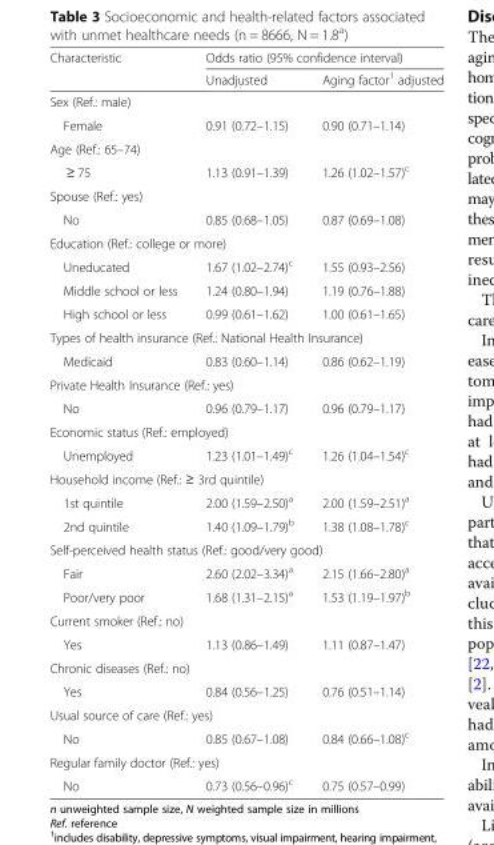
<table><thead><tr><td rowspan="2">Characteristic</td><td colspan="2">Odds ratio (95% confidence interval)</td></tr><tr><td>Unadjusted</td><td>Aging factor<sup>1</sup> adjusted</td></tr></thead><tbody><tr><td colspan="3">Sex (Ref.: male)</td></tr><tr><td>Female</td><td>0.91 (0.72–1.15)</td><td>0.90 (0.71–1.14)</td></tr><tr><td colspan="3">Age (Ref.: 65–74)</td></tr><tr><td>≥ 75</td><td>1.13 (0.91–1.39)</td><td>1.26 (1.02–1.57)<sup>c</sup></td></tr><tr><td colspan="3">Spouse (Ref.: yes)</td></tr><tr><td>No</td><td>0.85 (0.68–1.05)</td><td>0.87 (0.69–1.08)</td></tr><tr><td colspan="3">Education (Ref.: college or more)</td></tr><tr><td>Uneducated</td><td>1.67 (1.02–2.74)<sup>c</sup></td><td>1.55 (0.93–2.56)</td></tr><tr><td>Middle school or less</td><td>1.24 (0.80–1.94)</td><td>1.19 (0.76–1.88)</td></tr><tr><td>High school or less</td><td>0.99 (0.61–1.62)</td><td>1.00 (0.61–1.65)</td></tr><tr><td colspan="3">Types of health insurance (Ref.: National Health Insurance)</td></tr><tr><td>Medicaid</td><td>0.83 (0.60–1.14)</td><td>0.86 (0.62–1.19)</td></tr><tr><td colspan="3">Private Health Insurance (Ref.: yes)</td></tr><tr><td>No</td><td>0.96 (0.79–1.17)</td><td>0.96 (0.79–1.17)</td></tr><tr><td colspan="3">Economic status (Ref.: employed)</td></tr><tr><td>Unemployed</td><td>1.23 (1.01–1.49)<sup>c</sup></td><td>1.26 (1.04–1.54)<sup>c</sup></td></tr><tr><td colspan="3">Household income (Ref.: ≥ 3rd quintile)</td></tr><tr><td>1st quintile</td><td>2.00 (1.59–2.50)<sup>a</sup></td><td>2.00 (1.59–2.51)<sup>a</sup></td></tr><tr><td>2nd quintile</td><td>1.40 (1.09–1.79)<sup>b</sup></td><td>1.38 (1.08–1.78)<sup>c</sup></td></tr><tr><td colspan="3">Self-perceived health status (Ref.: good/very good)</td></tr><tr><td>Fair</td><td>2.60 (2.02–3.34)<sup>a</sup></td><td>2.15 (1.66–2.80)<sup>a</sup></td></tr><tr><td>Poor/very poor</td><td>1.68 (1.31–2.15)<sup>a</sup></td><td>1.53 (1.19–1.97)<sup>b</sup></td></tr><tr><td colspan="3">Current smoker (Ref.: no)</td></tr><tr><td>Yes</td><td>1.13 (0.86–1.49)</td><td>1.11 (0.87–1.47)</td></tr><tr><td colspan="3">Chronic diseases (Ref.: no)</td></tr><tr><td>Yes</td><td>0.84 (0.56–1.25)</td><td>0.76 (0.51–1.14)</td></tr><tr><td colspan="3">Usual source of care (Ref.: yes)</td></tr><tr><td>No</td><td>0.85 (0.67–1.08)</td><td>0.84 (0.66–1.08)<sup>c</sup></td></tr><tr><td colspan="3">Regular family doctor (Ref.: yes)</td></tr><tr><td>No</td><td>0.73 (0.56–0.96)<sup>c</sup></td><td>0.75 (0.57–0.99)</td></tr></tbody></table>